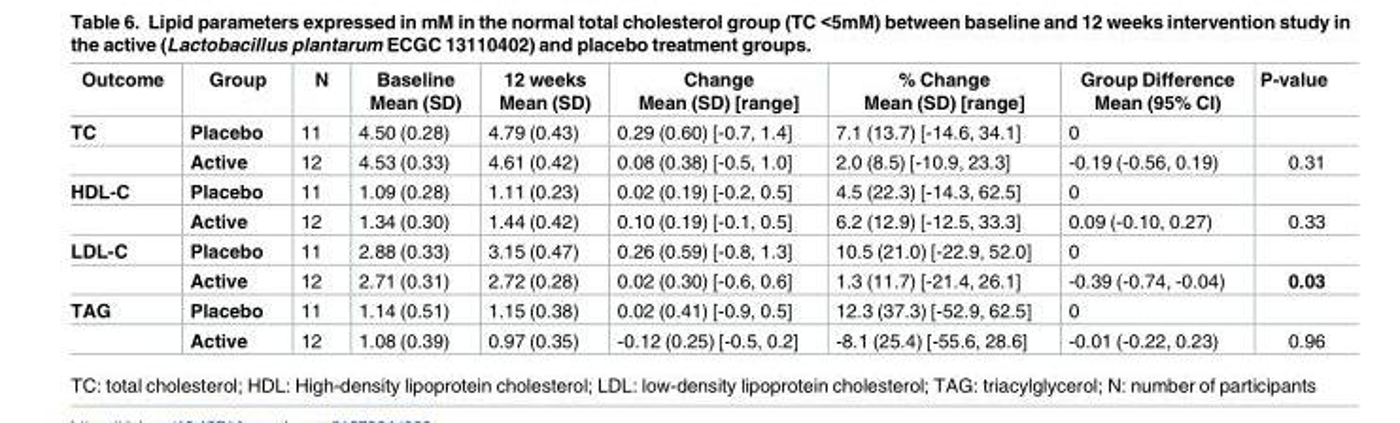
<table><thead><tr><td>Outcome</td><td>Group</td><td>N</td><td>Baseline Mean (SD)</td><td>12 weeks Mean (SD)</td><td>Change Mean (SD) [range]</td><td>% Change Mean (SD) [range]</td><td>Group Difference Mean (95% CI)</td><td>P-value</td></tr></thead><tbody><tr><td rowspan="2">TC</td><td>Placebo</td><td>11</td><td>4.50 (0.28)</td><td>4.79 (0.43)</td><td>0.29 (0.60) [-0.7, 1.4]</td><td>7.1 (13.7) [-14.6, 34.1]</td><td>0</td><td></td></tr><tr><td>Active</td><td>12</td><td>4.53 (0.33)</td><td>4.61 (0.42)</td><td>0.08 (0.38) [-0.5, 1.0]</td><td>2.0 (8.5) [-10.9, 23.3]</td><td>-0.19 (-0.56, 0.19)</td><td>0.31</td></tr><tr><td rowspan="2">HDL-C</td><td>Placebo</td><td>11</td><td>1.09 (0.28)</td><td>1.11 (0.23)</td><td>0.02 (0.19) [-0.2, 0.5]</td><td>4.5 (22.3) [-14.3, 62.5]</td><td>0</td><td></td></tr><tr><td>Active</td><td>12</td><td>1.34 (0.30)</td><td>1.44 (0.42)</td><td>0.10 (0.19) [-0.1, 0.5]</td><td>6.2 (12.9) [-12.5, 33.3]</td><td>0.09 (-0.10, 0.27)</td><td>0.33</td></tr><tr><td rowspan="2">LDL-C</td><td>Placebo</td><td>11</td><td>2.88 (0.33)</td><td>3.15 (0.47)</td><td>0.26 (0.59) [-0.8, 1.3]</td><td>10.5 (21.0) [-22.9, 52.0]</td><td>0</td><td></td></tr><tr><td>Active</td><td>12</td><td>2.71 (0.31)</td><td>2.72 (0.28)</td><td>0.02 (0.30) [-0.6, 0.6]</td><td>1.3 (11.7) [-21.4, 26.1]</td><td>-0.39 (-0.74, -0.04)</td><td>0.03</td></tr><tr><td rowspan="2">TAG</td><td>Placebo</td><td>11</td><td>1.14 (0.51)</td><td>1.15 (0.38)</td><td>0.02 (0.41) [-0.9, 0.5]</td><td>12.3 (37.3) [-52.9, 62.5]</td><td>0</td><td></td></tr><tr><td>Active</td><td>12</td><td>1.08 (0.39)</td><td>0.97 (0.35)</td><td>-0.12 (0.25) [-0.5, 0.2]</td><td>-8.1 (25.4) [-55.6, 28.6]</td><td>-0.01 (-0.22, 0.23)</td><td>0.96</td></tr></tbody></table>